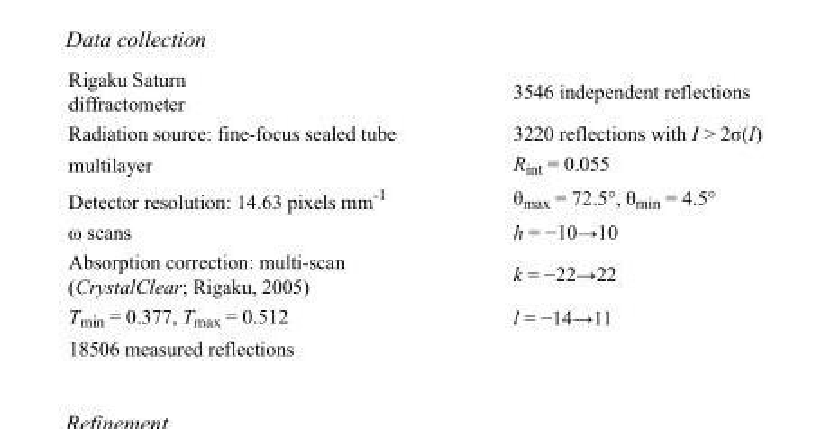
<table><tbody><tr><td>Rigaku Saturn diffractometer</td><td>3546 independent reflections</td></tr><tr><td>Radiation source: fine-focus sealed tube</td><td>3220 reflections with I &gt; 2σ(I)</td></tr><tr><td>multilayer</td><td>R<sub>int</sub> = 0.055</td></tr><tr><td>Detector resolution: 14.63 pixels mm<sup>-1</sup></td><td>θ<sub>max</sub> = 72.5°, θ<sub>min</sub> = 4.5°</td></tr><tr><td>ω scans</td><td>h = −10→10</td></tr><tr><td>Absorption correction: multi-scan (CrystalClear; Rigaku, 2005)</td><td>k = −22→22</td></tr><tr><td>T<sub>min</sub> = 0.377, T<sub>max</sub> = 0.512</td><td>l = −14→11</td></tr><tr><td>18506 measured reflections</td><td></td></tr></tbody></table>